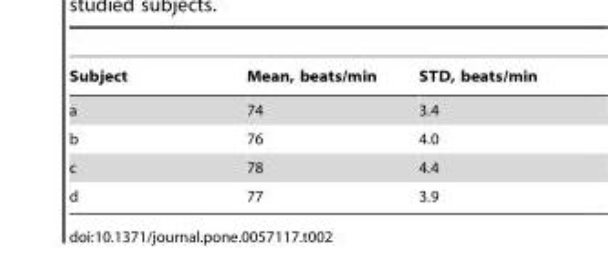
<table><thead><tr><td>Subject</td><td>Mean, beats/min</td><td>STD, beats/min</td></tr></thead><tbody><tr><td>a</td><td>74</td><td>3.4</td></tr><tr><td>b</td><td>76</td><td>4.0</td></tr><tr><td>c</td><td>78</td><td>4.4</td></tr><tr><td>d</td><td>77</td><td>3.9</td></tr></tbody></table>